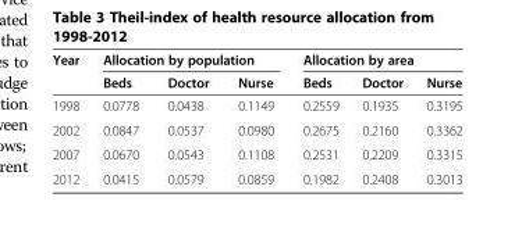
<table><thead><tr><td rowspan="2">Year</td><td colspan="3">Allocation by population</td><td colspan="3">Allocation by area</td></tr><tr><td>Beds</td><td>Doctor</td><td>Nurse</td><td>Beds</td><td>Doctor</td><td>Nurse</td></tr></thead><tbody><tr><td>1998</td><td>0.0778</td><td>0.0438</td><td>0.1149</td><td>0.2559</td><td>0.1935</td><td>0.3195</td></tr><tr><td>2002</td><td>0.0847</td><td>0.0537</td><td>0.0980</td><td>0.2675</td><td>0.2160</td><td>0.3362</td></tr><tr><td>2007</td><td>0.0670</td><td>0.0543</td><td>0.1108</td><td>0.2531</td><td>0.2209</td><td>0.3315</td></tr><tr><td>2012</td><td>0.0415</td><td>0.0579</td><td>0.0859</td><td>0.1982</td><td>0.2408</td><td>0.3013</td></tr></tbody></table>